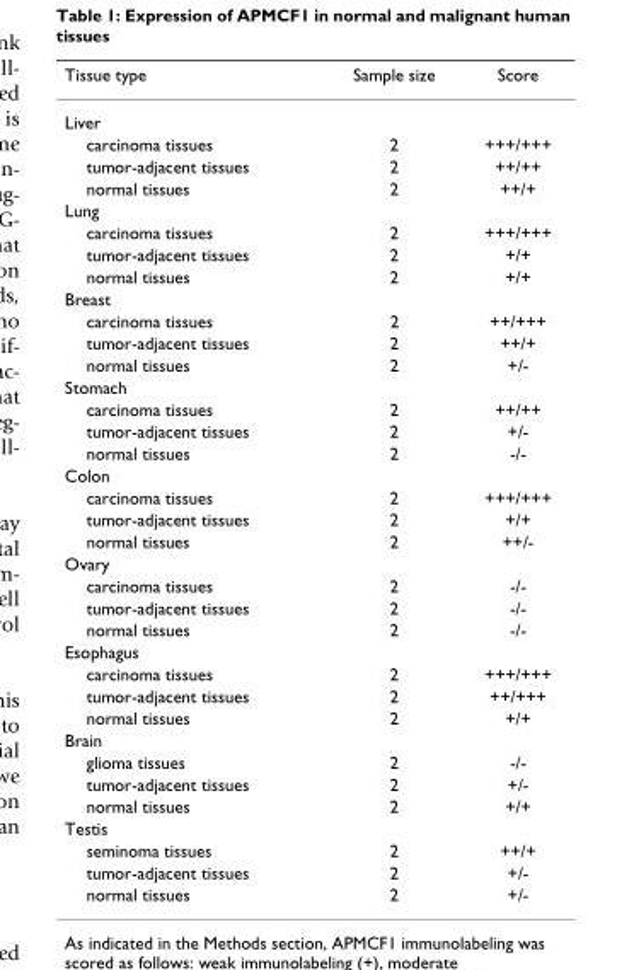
<table><thead><tr><td>Tissue type</td><td>Sample size</td><td>Score</td></tr></thead><tbody><tr><td colspan="3">Liver</td></tr><tr><td>carcinoma tissues</td><td>2</td><td>+++/+++</td></tr><tr><td>tumor-adjacent tissues</td><td>2</td><td>++/++</td></tr><tr><td>normal tissues</td><td>2</td><td>++/+</td></tr><tr><td colspan="3">Lung</td></tr><tr><td>carcinoma tissues</td><td>2</td><td>+++/+++</td></tr><tr><td>tumor-adjacent tissues</td><td>2</td><td>+/+</td></tr><tr><td>normal tissues</td><td>2</td><td>+/+</td></tr><tr><td colspan="3">Breast</td></tr><tr><td>carcinoma tissues</td><td>2</td><td>++/+++</td></tr><tr><td>tumor-adjacent tissues</td><td>2</td><td>++/+</td></tr><tr><td>normal tissues</td><td>2</td><td>+/-</td></tr><tr><td colspan="3">Stomach</td></tr><tr><td>carcinoma tissues</td><td>2</td><td>++/++</td></tr><tr><td>tumor-adjacent tissues</td><td>2</td><td>+/-</td></tr><tr><td>normal tissues</td><td>2</td><td>-/-</td></tr><tr><td colspan="3">Colon</td></tr><tr><td>carcinoma tissues</td><td>2</td><td>+++/+++</td></tr><tr><td>tumor-adjacent tissues</td><td>2</td><td>+/+</td></tr><tr><td>normal tissues</td><td>2</td><td>++/-</td></tr><tr><td colspan="3">Ovary</td></tr><tr><td>carcinoma tissues</td><td>2</td><td>-/-</td></tr><tr><td>tumor-adjacent tissues</td><td>2</td><td>-/-</td></tr><tr><td>normal tissues</td><td>2</td><td>-/-</td></tr><tr><td colspan="3">Esophagus</td></tr><tr><td>carcinoma tissues</td><td>2</td><td>+++/+++</td></tr><tr><td>tumor-adjacent tissues</td><td>2</td><td>++/+++</td></tr><tr><td>normal tissues</td><td>2</td><td>+/+</td></tr><tr><td colspan="3">Brain</td></tr><tr><td>glioma tissues</td><td>2</td><td>-/-</td></tr><tr><td>tumor-adjacent tissues</td><td>2</td><td>+/-</td></tr><tr><td>normal tissues</td><td>2</td><td>+/+</td></tr><tr><td colspan="3">Testis</td></tr><tr><td>seminoma tissues</td><td>2</td><td>++/+</td></tr><tr><td>tumor-adjacent tissues</td><td>2</td><td>+/-</td></tr><tr><td>normal tissues</td><td>2</td><td>+/-</td></tr></tbody></table>